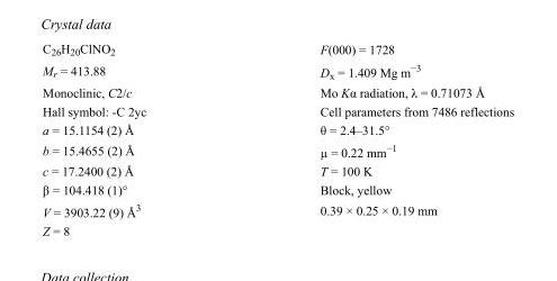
<table><tbody><tr><td>C<sub>26</sub>H<sub>20</sub>ClNO<sub>2</sub></td><td>F(000) = 1728</td></tr><tr><td>M<sub>r</sub> = 413.88</td><td>D<sub>x</sub> = 1.409 Mg m<sup>−3</sup></td></tr><tr><td>Monoclinic, C2/c</td><td>Mo Kα radiation, λ = 0.71073 Å</td></tr><tr><td>Hall symbol: -C 2yc</td><td>Cell parameters from 7486 reflections</td></tr><tr><td>a = 15.1154 (2) Å</td><td>θ = 2.4–31.5°</td></tr><tr><td>b = 15.4655 (2) Å</td><td>µ = 0.22 mm<sup>−1</sup></td></tr><tr><td>c = 17.2400 (2) Å</td><td>T = 100 K</td></tr><tr><td>β = 104.418 (1)°</td><td>Block, yellow</td></tr><tr><td>V = 3903.22 (9) Å<sup>3</sup></td><td>0.39 × 0.25 × 0.19 mm</td></tr><tr><td>Z = 8</td><td></td></tr></tbody></table>